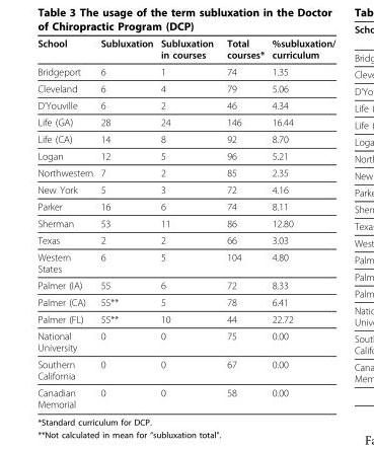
<table><thead><tr><td>School</td><td>Subluxation</td><td>Subluxation in courses</td><td>Total courses*</td><td>%subluxation/ curriculum</td></tr></thead><tbody><tr><td>Bridgeport</td><td>6</td><td>1</td><td>74</td><td>1.35</td></tr><tr><td>Cleveland</td><td>6</td><td>4</td><td>79</td><td>5.06</td></tr><tr><td>D’Youville</td><td>6</td><td>2</td><td>46</td><td>4.34</td></tr><tr><td>Life (GA)</td><td>28</td><td>24</td><td>146</td><td>16.44</td></tr><tr><td>Life (CA)</td><td>14</td><td>8</td><td>92</td><td>8.70</td></tr><tr><td>Logan</td><td>12</td><td>5</td><td>96</td><td>5.21</td></tr><tr><td>Northwestern</td><td>7</td><td>2</td><td>85</td><td>2.35</td></tr><tr><td>New York</td><td>5</td><td>3</td><td>72</td><td>4.16</td></tr><tr><td>Parker</td><td>16</td><td>6</td><td>74</td><td>8.11</td></tr><tr><td>Sherman</td><td>53</td><td>11</td><td>86</td><td>12.80</td></tr><tr><td>Texas</td><td>2</td><td>2</td><td>66</td><td>3.03</td></tr><tr><td>Western States</td><td>6</td><td>5</td><td>104</td><td>4.80</td></tr><tr><td>Palmer (IA)</td><td>55</td><td>6</td><td>72</td><td>8.33</td></tr><tr><td>Palmer (CA)</td><td>55**</td><td>5</td><td>78</td><td>6.41</td></tr><tr><td>Palmer (FL)</td><td>55**</td><td>10</td><td>44</td><td>22.72</td></tr><tr><td>National University</td><td>0</td><td>0</td><td>75</td><td>0.00</td></tr><tr><td>Southern California</td><td>0</td><td>0</td><td>67</td><td>0.00</td></tr><tr><td>Canadian Memorial</td><td>0</td><td>0</td><td>58</td><td>0.00</td></tr></tbody></table>